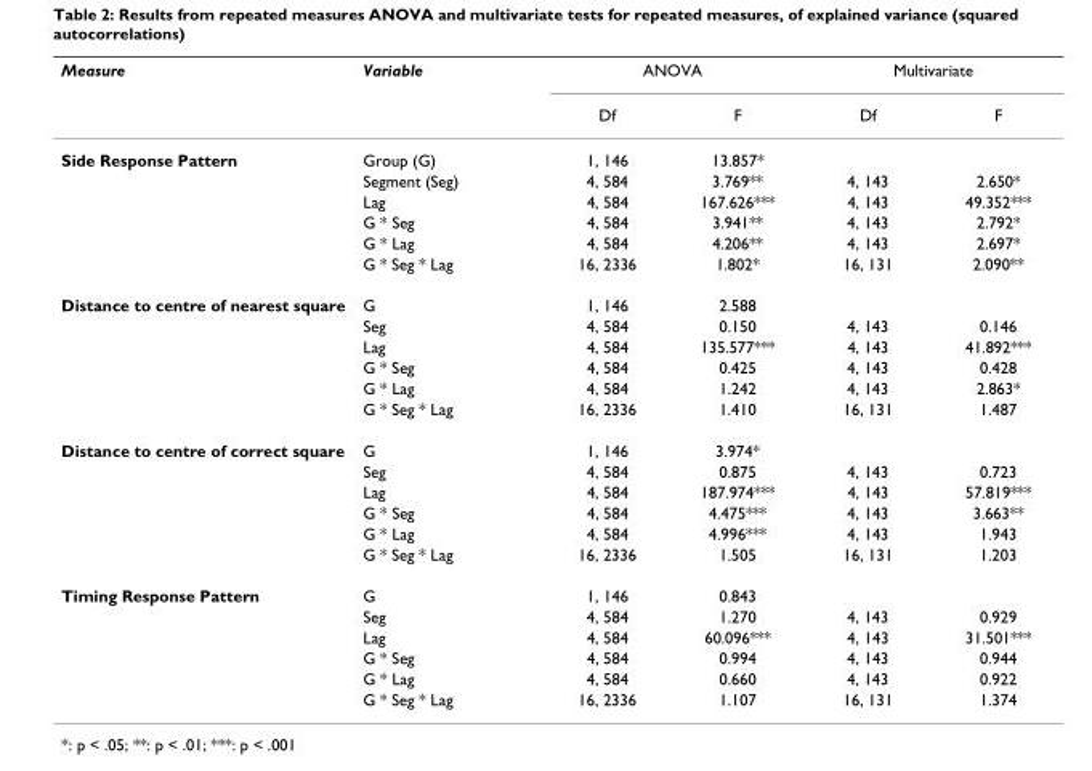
<table><thead><tr><td rowspan="2">Measure</td><td rowspan="2">Variable</td><td colspan="2">ANOVA</td><td colspan="2">Multivariate</td></tr><tr><td>Df</td><td>F</td><td>Df</td><td>F</td></tr></thead><tbody><tr><td rowspan="6">Side Response Pattern</td><td>Group (G)</td><td>1, 146</td><td>13.857*</td><td></td><td></td></tr><tr><td>Segment (Seg)</td><td>4, 584</td><td>3.769**</td><td>4, 143</td><td>2.650*</td></tr><tr><td>Lag</td><td>4, 584</td><td>167.626***</td><td>4, 143</td><td>49.352***</td></tr><tr><td>G * Seg</td><td>4, 584</td><td>3.941**</td><td>4, 143</td><td>2.792*</td></tr><tr><td>G * Lag</td><td>4, 584</td><td>4.206**</td><td>4, 143</td><td>2.697*</td></tr><tr><td>G * Seg * Lag</td><td>16, 2336</td><td>1.802*</td><td>16, 131</td><td>2.090**</td></tr><tr><td rowspan="6">Distance to centre of nearest square</td><td>G</td><td>1, 146</td><td>2.588</td><td></td><td></td></tr><tr><td>Seg</td><td>4, 584</td><td>0.150</td><td>4, 143</td><td>0.146</td></tr><tr><td>Lag</td><td>4, 584</td><td>135.577***</td><td>4, 143</td><td>41.892***</td></tr><tr><td>G * Seg</td><td>4, 584</td><td>0.425</td><td>4, 143</td><td>0.428</td></tr><tr><td>G * Lag</td><td>4, 584</td><td>1.242</td><td>4, 143</td><td>2.863*</td></tr><tr><td>G * Seg * Lag</td><td>16, 2336</td><td>1.410</td><td>16, 131</td><td>1.487</td></tr><tr><td rowspan="6">Distance to centre of correct square</td><td>G</td><td>1, 146</td><td>3.974*</td><td></td><td></td></tr><tr><td>Seg</td><td>4, 584</td><td>0.875</td><td>4, 143</td><td>0.723</td></tr><tr><td>Lag</td><td>4, 584</td><td>187.974***</td><td>4, 143</td><td>57.819***</td></tr><tr><td>G * Seg</td><td>4, 584</td><td>4.475***</td><td>4, 143</td><td>3.663**</td></tr><tr><td>G * Lag</td><td>4, 584</td><td>4.996***</td><td>4, 143</td><td>1.943</td></tr><tr><td>G * Seg * Lag</td><td>16, 2336</td><td>1.505</td><td>16, 131</td><td>1.203</td></tr><tr><td rowspan="6">Timing Response Pattern</td><td>G</td><td>1, 146</td><td>0.843</td><td></td><td></td></tr><tr><td>Seg</td><td>4, 584</td><td>1.270</td><td>4, 143</td><td>0.929</td></tr><tr><td>Lag</td><td>4, 584</td><td>60.096***</td><td>4, 143</td><td>31.501***</td></tr><tr><td>G * Seg</td><td>4, 584</td><td>0.994</td><td>4, 143</td><td>0.944</td></tr><tr><td>G * Lag</td><td>4, 584</td><td>0.660</td><td>4, 143</td><td>0.922</td></tr><tr><td>G * Seg * Lag</td><td>16, 2336</td><td>1.107</td><td>16, 131</td><td>1.374</td></tr></tbody></table>